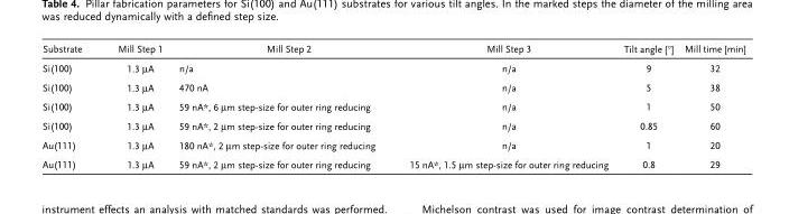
<table><thead><tr><td>Substrate</td><td>Mill Step 1</td><td>Mill Step 2</td><td>Mill Step 3</td><td>Tilt angle [°]</td><td>Mill time [min]</td></tr></thead><tbody><tr><td>Si(100)</td><td>1.3 µA</td><td>n/a</td><td>n/a</td><td>9</td><td>32</td></tr><tr><td>Si(100)</td><td>1.3 µA</td><td>470 nA</td><td>n/a</td><td>5</td><td>38</td></tr><tr><td>Si(100)</td><td>1.3 µA</td><td>59 nA*, 6 µm step-size for outer ring reducing</td><td>n/a</td><td>1</td><td>50</td></tr><tr><td>Si(100)</td><td>1.3 µA</td><td>59 nA*, 2 µm step-size for outer ring reducing</td><td>n/a</td><td>0.85</td><td>60</td></tr><tr><td>Au(111)</td><td>1.3 µA</td><td>180 nA*, 2 µm step-size for outer ring reducing</td><td>n/a</td><td>1</td><td>20</td></tr><tr><td>Au(111)</td><td>1.3 µA</td><td>59 nA*, 2 µm step-size for outer ring reducing</td><td>15 nA*, 1.5 µm step-size for outer ring reducing</td><td>0.8</td><td>29</td></tr></tbody></table>